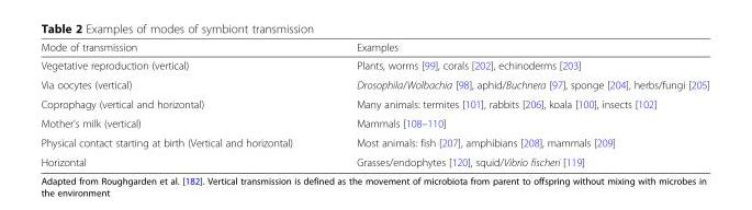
<table><thead><tr><td>Mode of transmission</td><td>Examples</td></tr></thead><tbody><tr><td>Vegetative reproduction (vertical)</td><td>Plants, worms [99], corals [202], echinoderms [203]</td></tr><tr><td>Via oocytes (vertical)</td><td>Drosophila/Wolbachia [98], aphid/Buchnera [97], sponge [204], herbs/fungi [205]</td></tr><tr><td>Coprophagy (vertical and horizontal)</td><td>Many animals: termites [101], rabbits [206], koala [100], insects [102]</td></tr><tr><td>Mother’s milk (vertical)</td><td>Mammals [108–110]</td></tr><tr><td>Physical contact starting at birth (Vertical and horizontal)</td><td>Most animals: fish [207], amphibians [208], mammals [209]</td></tr><tr><td>Horizontal</td><td>Grasses/endophytes [120], squid/Vibrio fischeri [119]</td></tr></tbody></table>